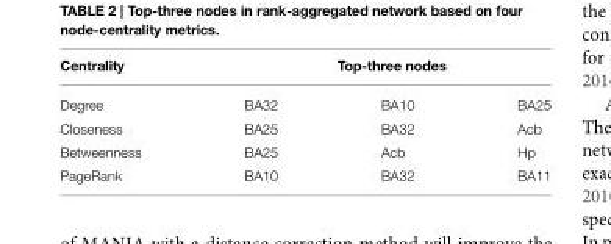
<table><thead><tr><td rowspan="2">Centrality Degree</td><td colspan="3">Top-three nodes</td></tr><tr><td>BA32</td><td>BA10</td><td>BA25</td></tr></thead><tbody><tr><td>Closeness</td><td>BA25</td><td>BA32</td><td>Acb</td></tr><tr><td>Betweenness</td><td>BA25</td><td>Acb</td><td>Hp</td></tr><tr><td>PageRank</td><td>BA10</td><td>BA32</td><td>BA11</td></tr></tbody></table>